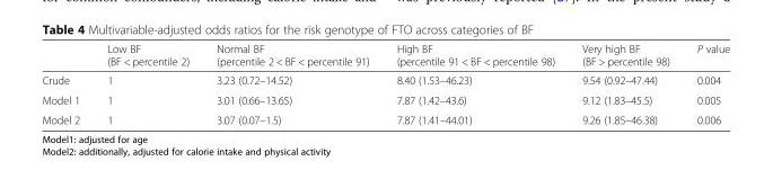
<table><thead><tr><td></td><td>Low BF (BF &lt; percentile 2)</td><td>Normal BF (percentile 2 &lt; BF &lt; percentile 91)</td><td>High BF (percentile 91 &lt; BF &lt; percentile 98)</td><td>Very high BF (BF &gt; percentile 98)</td><td>P value</td></tr></thead><tbody><tr><td>Crude</td><td>1</td><td>3.23 (0.72–14.52)</td><td>8.40 (1.53–46.23)</td><td>9.54 (0.92–47.44)</td><td>0.004</td></tr><tr><td>Model 1</td><td>1</td><td>3.01 (0.66–13.65)</td><td>7.87 (1.42–43.6)</td><td>9.12 (1.83–45.5)</td><td>0.005</td></tr><tr><td>Model 2</td><td>1</td><td>3.07 (0.07–1.5)</td><td>7.87 (1.41–44.01)</td><td>9.26 (1.85–46.38)</td><td>0.006</td></tr></tbody></table>